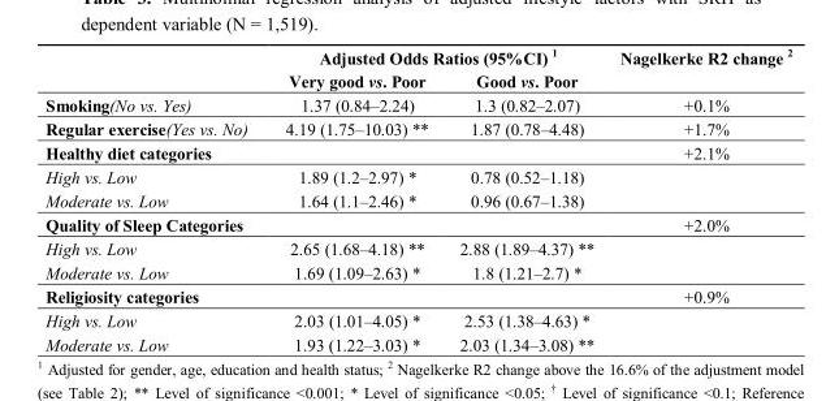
<table><thead><tr><td rowspan="2"></td><td colspan="2">Adjusted Odds Ratios (95%CI) <sup>1</sup></td><td rowspan="2">Nagelkerke R2 change <sup>2</sup></td></tr><tr><td>Very good vs. Poor</td><td>Good vs. Poor</td></tr></thead><tbody><tr><td>Smoking(No vs. Yes)</td><td>1.37 (0.84–2.24)</td><td>1.3 (0.82–2.07)</td><td>+0.1%</td></tr><tr><td>Regular exercise(Yes vs. No)</td><td>4.19 (1.75–10.03) **</td><td>1.87 (0.78–4.48)</td><td>+1.7%</td></tr><tr><td>Healthy diet categories</td><td></td><td></td><td>+2.1%</td></tr><tr><td>High vs. Low</td><td>1.89 (1.2–2.97) *</td><td>0.78 (0.52–1.18)</td><td rowspan="2"></td></tr><tr><td>Moderate vs. Low</td><td>1.64 (1.1–2.46) *</td><td>0.96 (0.67–1.38)</td></tr><tr><td>Quality of Sleep Categories</td><td></td><td></td><td>+2.0%</td></tr><tr><td>High vs. Low</td><td>2.65 (1.68–4.18) **</td><td>2.88 (1.89–4.37) **</td><td rowspan="2"></td></tr><tr><td>Moderate vs. Low</td><td>1.69 (1.09–2.63) *</td><td>1.8 (1.21–2.7) *</td></tr><tr><td>Religiosity categories</td><td></td><td></td><td>+0.9%</td></tr><tr><td>High vs. Low</td><td>2.03 (1.01–4.05) *</td><td>2.53 (1.38–4.63) *</td><td rowspan="2"></td></tr><tr><td>Moderate vs. Low</td><td>1.93 (1.22–3.03) *</td><td>2.03 (1.34–3.08) **</td></tr></tbody></table>